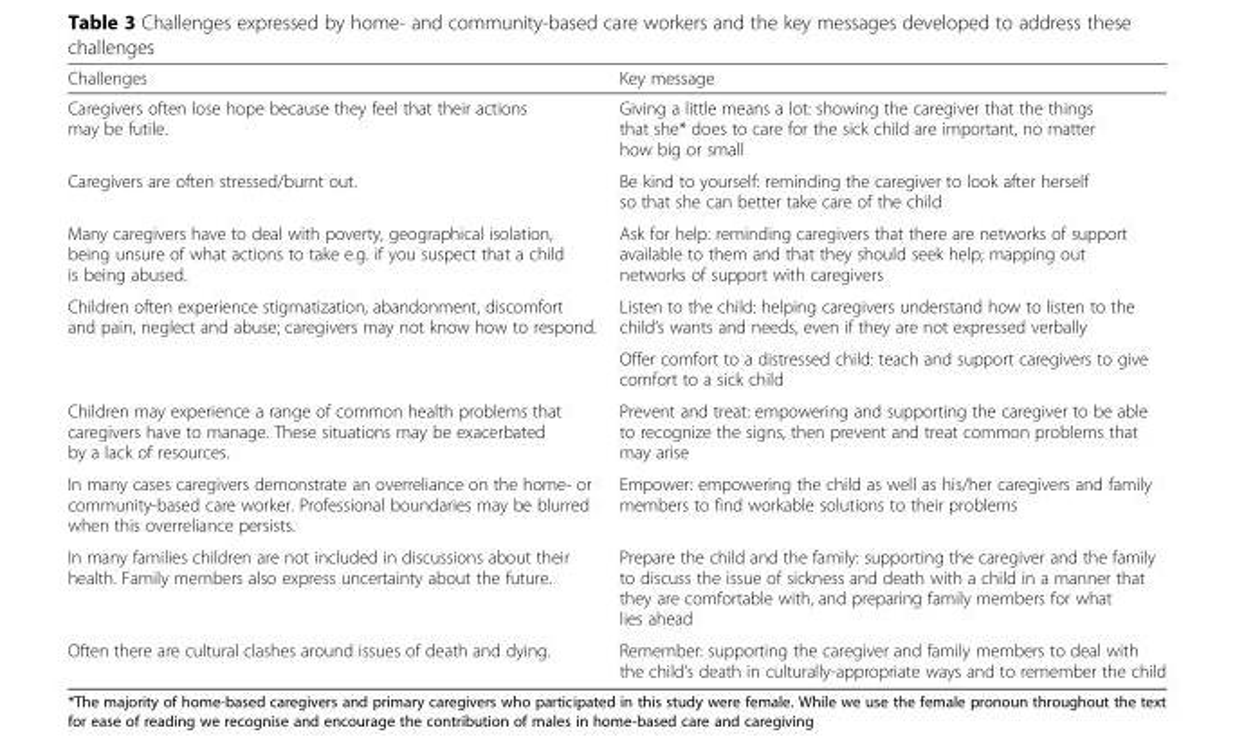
<table><thead><tr><td>Challenges</td><td>Key message</td></tr></thead><tbody><tr><td>Caregivers often lose hope because they feel that their actions may be futile.</td><td>Giving a little means a lot: showing the caregiver that the things that she* does to care for the sick child are important, no matter how big or small</td></tr><tr><td>Caregivers are often stressed/burnt out.</td><td>Be kind to yourself: reminding the caregiver to look after herself so that she can better take care of the child</td></tr><tr><td>Many caregivers have to deal with poverty, geographical isolation, being unsure of what actions to take e.g. if you suspect that a child is being abused.</td><td>Ask for help: reminding caregivers that there are networks of support available to them and that they should seek help; mapping out networks of support with caregivers</td></tr><tr><td rowspan="2">Children often experience stigmatization, abandonment, discomfort and pain, neglect and abuse; caregivers may not know how to respond.</td><td>Listen to the child: helping caregivers understand how to listen to the child’s wants and needs, even if they are not expressed verbally</td></tr><tr><td>Offer comfort to a distressed child: teach and support caregivers to give comfort to a sick child</td></tr><tr><td>Children may experience a range of common health problems that caregivers have to manage. These situations may be exacerbated by a lack of resources.</td><td>Prevent and treat: empowering and supporting the caregiver to be able to recognize the signs, then prevent and treat common problems that may arise</td></tr><tr><td>In many cases caregivers demonstrate an overreliance on the home- or community-based care worker. Professional boundaries may be blurred when this overreliance persists.</td><td>Empower: empowering the child as well as his/her caregivers and family members to find workable solutions to their problems</td></tr><tr><td>In many families children are not included in discussions about their health. Family members also express uncertainty about the future.</td><td>Prepare the child and the family: supporting the caregiver and the family to discuss the issue of sickness and death with a child in a manner that they are comfortable with, and preparing family members for what lies ahead</td></tr><tr><td>Often there are cultural clashes around issues of death and dying.</td><td>Remember: supporting the caregiver and family members to deal with the child’s death in culturally-appropriate ways and to remember the child</td></tr></tbody></table>